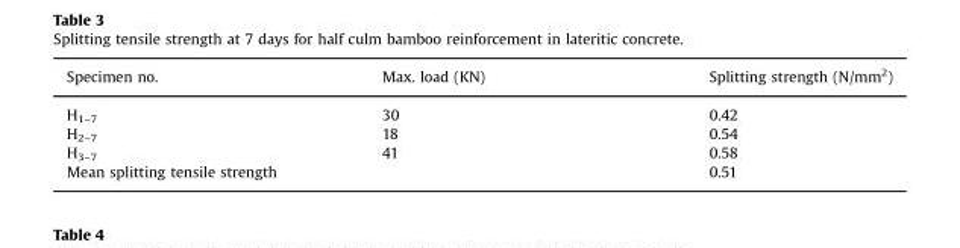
<table><thead><tr><td>Specimen no.</td><td>Max. load (KN)</td><td>Splitting strength (N/mm<sup>2</sup>)</td></tr></thead><tbody><tr><td>H<sub>1–7</sub></td><td>30</td><td>0.42</td></tr><tr><td>H<sub>2–7</sub></td><td>18</td><td>0.54</td></tr><tr><td>H<sub>3–7</sub></td><td>41</td><td>0.58</td></tr><tr><td colspan="2">Mean splitting tensile strength</td><td>0.51</td></tr></tbody></table>